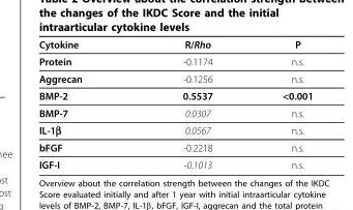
<table><thead><tr><td>Cytokine</td><td>R/Rho</td><td>P</td></tr></thead><tbody><tr><td>Protein</td><td>-0.1174</td><td>n.s.</td></tr><tr><td>Aggrecan</td><td>-0.1256</td><td>n.s.</td></tr><tr><td>BMP-2</td><td>0.5537</td><td>&lt;0.001</td></tr><tr><td>BMP-7</td><td>0.0307</td><td>n.s.</td></tr><tr><td>IL-1β</td><td>0.0567</td><td>n.s.</td></tr><tr><td>bFGF</td><td>-0.2218</td><td>n.s.</td></tr><tr><td>IGF-I</td><td>-0.1013</td><td>n.s.</td></tr></tbody></table>